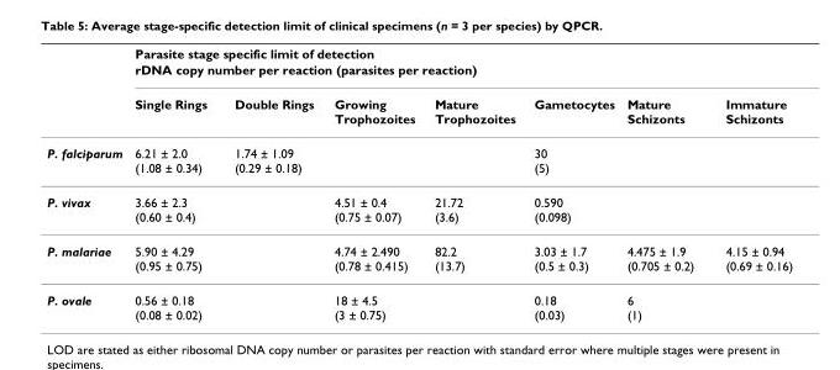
<table><thead><tr><td rowspan="3"></td><td rowspan="2" colspan="7">Parasite stage specific limit of detection rDNA copy number per reaction (parasites per reaction)</td></tr><tr></tr><tr><td>Single Rings</td><td>Double Rings</td><td>Growing Trophozoites</td><td>Mature Trophozoites</td><td>Gametocytes</td><td>Mature Schizonts</td><td>Immature Schizonts</td></tr></thead><tbody><tr><td>P. falciparum</td><td>6.21 ± 2.0 (1.08 ± 0.34)</td><td>1.74 ± 1.09 (0.29 ± 0.18)</td><td></td><td></td><td>30 (5)</td><td></td><td></td></tr><tr><td>P. vivax</td><td>3.66 ± 2.3 (0.60 ± 0.4)</td><td></td><td>4.51 ± 0.4 (0.75 ± 0.07)</td><td>21.72 (3.6)</td><td>0.590 (0.098)</td><td></td><td></td></tr><tr><td>P. malariae</td><td>5.90 ± 4.29 (0.95 ± 0.75)</td><td></td><td>4.74 ± 2.490 (0.78 ± 0.415)</td><td>82.2 (13.7)</td><td>3.03 ± 1.7 (0.5 ± 0.3)</td><td>4.475 ± 1.9 (0.705 ± 0.2)</td><td>4.15 ± 0.94 (0.69 ± 0.16)</td></tr><tr><td>P. ovale</td><td>0.56 ± 0.18 (0.08 ± 0.02)</td><td></td><td>18 ± 4.5 (3 ± 0.75)</td><td></td><td>0.18 (0.03)</td><td>6 (1)</td><td></td></tr></tbody></table>